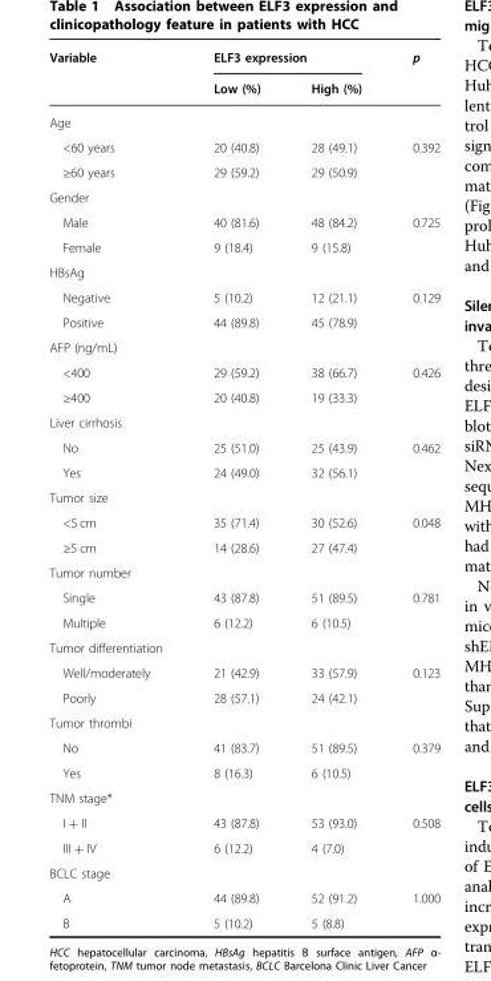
<table><thead><tr><td rowspan="2">Variable</td><td colspan="2">ELF3 expression</td><td rowspan="2">p</td></tr><tr><td>Low (%)</td><td>High (%)</td></tr></thead><tbody><tr><td colspan="4">Age</td></tr><tr><td>&lt;60 years</td><td>20 (40.8)</td><td>28 (49.1)</td><td>0.392</td></tr><tr><td>≥60 years</td><td>29 (59.2)</td><td>29 (50.9)</td><td></td></tr><tr><td colspan="4">Gender</td></tr><tr><td>Male</td><td>40 (81.6)</td><td>48 (84.2)</td><td>0.725</td></tr><tr><td>Female</td><td>9 (18.4)</td><td>9 (15.8)</td><td></td></tr><tr><td colspan="4">HBsAg</td></tr><tr><td>Negative</td><td>5 (10.2)</td><td>12 (21.1)</td><td>0.129</td></tr><tr><td>Positive</td><td>44 (89.8)</td><td>45 (78.9)</td><td></td></tr><tr><td colspan="4">AFP (ng/mL)</td></tr><tr><td>&lt;400</td><td>29 (59.2)</td><td>38 (66.7)</td><td>0.426</td></tr><tr><td>≥400</td><td>20 (40.8)</td><td>19 (33.3)</td><td></td></tr><tr><td colspan="4">Liver cirrhosis</td></tr><tr><td>No</td><td>25 (51.0)</td><td>25 (43.9)</td><td>0.462</td></tr><tr><td>Yes</td><td>24 (49.0)</td><td>32 (56.1)</td><td></td></tr><tr><td colspan="4">Tumor size</td></tr><tr><td>&lt;5 cm</td><td>35 (71.4)</td><td>30 (52.6)</td><td>0.048</td></tr><tr><td>≥5 cm</td><td>14 (28.6)</td><td>27 (47.4)</td><td></td></tr><tr><td colspan="4">Tumor number</td></tr><tr><td>Single</td><td>43 (87.8)</td><td>51 (89.5)</td><td>0.781</td></tr><tr><td>Multiple</td><td>6 (12.2)</td><td>6 (10.5)</td><td></td></tr><tr><td colspan="4">Tumor differentiation</td></tr><tr><td>Well/moderately</td><td>21 (42.9)</td><td>33 (57.9)</td><td>0.123</td></tr><tr><td>Poorly</td><td>28 (57.1)</td><td>24 (42.1)</td><td></td></tr><tr><td colspan="4">Tumor thrombi</td></tr><tr><td>No</td><td>41 (83.7)</td><td>51 (89.5)</td><td>0.379</td></tr><tr><td>Yes</td><td>8 (16.3)</td><td>6 (10.5)</td><td></td></tr><tr><td colspan="4">TNM stage*</td></tr><tr><td>I + II</td><td>43 (87.8)</td><td>53 (93.0)</td><td>0.508</td></tr><tr><td>III + IV</td><td>6 (12.2)</td><td>4 (7.0)</td><td></td></tr><tr><td colspan="4">BCLC stage</td></tr><tr><td>A</td><td>44 (89.8)</td><td>52 (91.2)</td><td>1.000</td></tr><tr><td>B</td><td>5 (10.2)</td><td>5 (8.8)</td><td></td></tr></tbody></table>